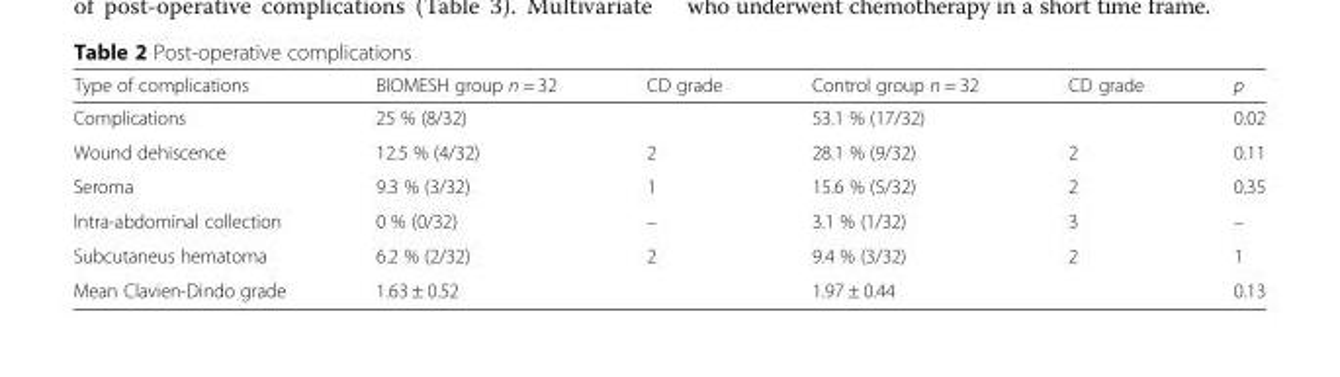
<table><thead><tr><td>Type of complications</td><td>BIOMESH group n = 32</td><td>CD grade</td><td>Control group n = 32</td><td>CD grade</td><td>p</td></tr></thead><tbody><tr><td>Complications</td><td>25 % (8/32)</td><td></td><td>53.1 % (17/32)</td><td></td><td>0.02</td></tr><tr><td>Wound dehiscence</td><td>12.5 % (4/32)</td><td>2</td><td>28.1 % (9/32)</td><td>2</td><td>0.11</td></tr><tr><td>Seroma</td><td>9.3 % (3/32)</td><td>1</td><td>15.6 % (5/32)</td><td>2</td><td>0.35</td></tr><tr><td>Intra-abdominal collection</td><td>0 % (0/32)</td><td>–</td><td>3.1 % (1/32)</td><td>3</td><td>–</td></tr><tr><td>Subcutaneus hematoma</td><td>6.2 % (2/32)</td><td>2</td><td>9.4 % (3/32)</td><td>2</td><td>1</td></tr><tr><td>Mean Clavien-Dindo grade</td><td>1.63 ± 0.52</td><td></td><td>1.97 ± 0.44</td><td></td><td>0.13</td></tr></tbody></table>